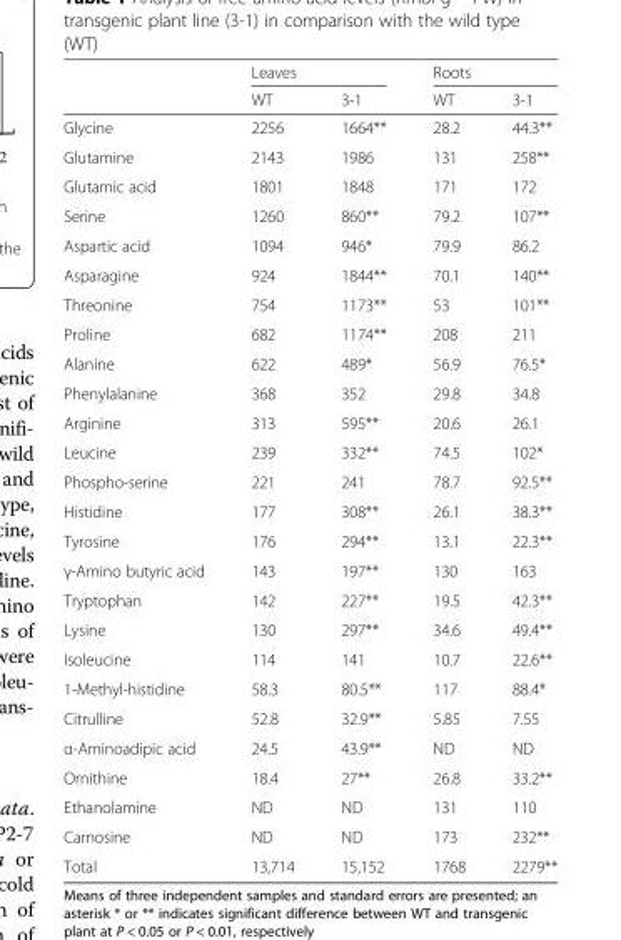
<table><thead><tr><td rowspan="2"></td><td colspan="2">Leaves</td><td colspan="2">Roots</td></tr><tr><td>WT</td><td>3-1</td><td>WT</td><td>3-1</td></tr></thead><tbody><tr><td>Glycine</td><td>2256</td><td>1664**</td><td>28.2</td><td>44.3**</td></tr><tr><td>Glutamine</td><td>2143</td><td>1986</td><td>131</td><td>258**</td></tr><tr><td>Glutamic acid</td><td>1801</td><td>1848</td><td>171</td><td>172</td></tr><tr><td>Serine</td><td>1260</td><td>860**</td><td>79.2</td><td>107**</td></tr><tr><td>Aspartic acid</td><td>1094</td><td>946*</td><td>79.9</td><td>86.2</td></tr><tr><td>Asparagine</td><td>924</td><td>1844**</td><td>70.1</td><td>140**</td></tr><tr><td>Threonine</td><td>754</td><td>1173**</td><td>53</td><td>101**</td></tr><tr><td>Proline</td><td>682</td><td>1174**</td><td>208</td><td>211</td></tr><tr><td>Alanine</td><td>622</td><td>489*</td><td>56.9</td><td>76.5*</td></tr><tr><td>Phenylalanine</td><td>368</td><td>352</td><td>29.8</td><td>34.8</td></tr><tr><td>Arginine</td><td>313</td><td>595**</td><td>20.6</td><td>26.1</td></tr><tr><td>Leucine</td><td>239</td><td>332**</td><td>74.5</td><td>102*</td></tr><tr><td>Phospho-serine</td><td>221</td><td>241</td><td>78.7</td><td>92.5**</td></tr><tr><td>Histidine</td><td>177</td><td>308**</td><td>26.1</td><td>38.3**</td></tr><tr><td>Tyrosine</td><td>176</td><td>294**</td><td>13.1</td><td>22.3**</td></tr><tr><td>γ-Amino butyric acid</td><td>143</td><td>197**</td><td>130</td><td>163</td></tr><tr><td>Tryptophan</td><td>142</td><td>227**</td><td>19.5</td><td>42.3**</td></tr><tr><td>Lysine</td><td>130</td><td>297**</td><td>34.6</td><td>49.4**</td></tr><tr><td>Isoleucine</td><td>114</td><td>141</td><td>10.7</td><td>22.6**</td></tr><tr><td>1-Methyl-histidine</td><td>58.3</td><td>80.5**</td><td>117</td><td>88.4*</td></tr><tr><td>Citrulline</td><td>52.8</td><td>32.9**</td><td>5.85</td><td>7.55</td></tr><tr><td>α-Aminoadipic acid</td><td>24.5</td><td>43.9**</td><td>ND</td><td>ND</td></tr><tr><td>Ornithine</td><td>18.4</td><td>27**</td><td>26.8</td><td>33.2**</td></tr><tr><td>Ethanolamine</td><td>ND</td><td>ND</td><td>131</td><td>110</td></tr><tr><td>Carnosine</td><td>ND</td><td>ND</td><td>173</td><td>232**</td></tr><tr><td>Total</td><td>13,714</td><td>15,152</td><td>1768</td><td>2279**</td></tr></tbody></table>